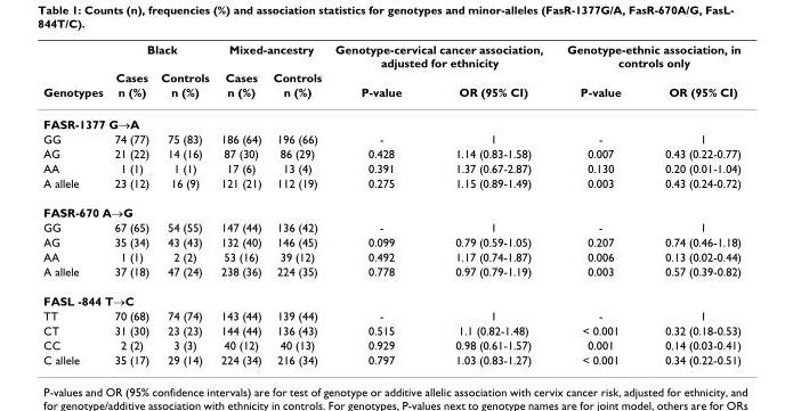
<table><thead><tr><td rowspan="3">Genotypes</td><td colspan="2">Black</td><td colspan="2">Mixed-ancestry</td><td colspan="2">Genotype-cervical cancer association, adjusted for ethnicity</td><td colspan="2">Genotype-ethnic association, in controls only</td></tr><tr><td rowspan="2">Cases n (%)</td><td rowspan="2">Controls n (%)</td><td rowspan="2">Cases n (%)</td><td rowspan="2">Controls n (%)</td><td rowspan="2">P-value</td><td rowspan="2">OR (95% CI)</td><td rowspan="2">P-value</td><td rowspan="2">OR (95% CI)</td></tr><tr></tr></thead><tbody><tr><td colspan="9">FASR-1377 G→A</td></tr><tr><td>GG</td><td>74 (77)</td><td>75 (83)</td><td>186 (64)</td><td>196 (66)</td><td>-</td><td>1</td><td>-</td><td>1</td></tr><tr><td>AG</td><td>21 (22)</td><td>14 (16)</td><td>87 (30)</td><td>86 (29)</td><td>0.428</td><td>1.14 (0.83-1.58)</td><td>0.007</td><td>0.43 (0.22-0.77)</td></tr><tr><td>AA</td><td>1 (1)</td><td>1 (1)</td><td>17 (6)</td><td>13 (4)</td><td>0.391</td><td>1.37 (0.67-2.87)</td><td>0.130</td><td>0.20 (0.01-1.04)</td></tr><tr><td>A allele</td><td>23 (12)</td><td>16 (9)</td><td>121 (21)</td><td>112 (19)</td><td>0.275</td><td>1.15 (0.89-1.49)</td><td>0.003</td><td>0.43 (0.24-0.72)</td></tr><tr><td colspan="9">FASR-670 A→G</td></tr><tr><td>GG</td><td>67 (65)</td><td>54 (55)</td><td>147 (44)</td><td>136 (42)</td><td>-</td><td>1</td><td>-</td><td>1</td></tr><tr><td>AG</td><td>35 (34)</td><td>43 (43)</td><td>132 (40)</td><td>146 (45)</td><td>0.099</td><td>0.79 (0.59-1.05)</td><td>0.207</td><td>0.74 (0.46-1.18)</td></tr><tr><td>AA</td><td>1 (1)</td><td>2 (2)</td><td>53 (16)</td><td>39 (12)</td><td>0.492</td><td>1.17 (0.74-1.87)</td><td>0.006</td><td>0.13 (0.02-0.44)</td></tr><tr><td>A allele</td><td>37 (18)</td><td>47 (24)</td><td>238 (36)</td><td>224 (35)</td><td>0.778</td><td>0.97 (0.79-1.19)</td><td>0.003</td><td>0.57 (0.39-0.82)</td></tr><tr><td colspan="9">FASL -844 T→C</td></tr><tr><td>TT</td><td>70 (68)</td><td>74 (74)</td><td>143 (44)</td><td>139 (44)</td><td>-</td><td>1</td><td>-</td><td>1</td></tr><tr><td>CT</td><td>31 (30)</td><td>23 (23)</td><td>144 (44)</td><td>136 (43)</td><td>0.515</td><td>1.1 (0.82-1.48)</td><td>&lt; 0.001</td><td>0.32 (0.18-0.53)</td></tr><tr><td>CC</td><td>2 (2)</td><td>3 (3)</td><td>40 (12)</td><td>40 (13)</td><td>0.929</td><td>0.98 (0.61-1.57)</td><td>0.001</td><td>0.14 (0.03-0.41)</td></tr><tr><td>C allele</td><td>35 (17)</td><td>29 (14)</td><td>224 (34)</td><td>216 (34)</td><td>0.797</td><td>1.03 (0.83-1.27)</td><td>&lt; 0.001</td><td>0.34 (0.22-0.51)</td></tr></tbody></table>